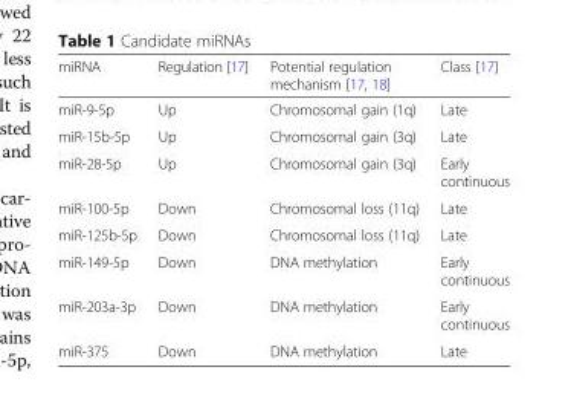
<table><thead><tr><td>miRNA</td><td>Regulation [17]</td><td>Potential regulation mechanism [17, 18]</td><td>Class [17]</td></tr></thead><tbody><tr><td>miR-9-5p</td><td>Up</td><td>Chromosomal gain (1q)</td><td>Late</td></tr><tr><td>miR-15b-5p</td><td>Up</td><td>Chromosomal gain (3q)</td><td>Late</td></tr><tr><td>miR-28-5p</td><td>Up</td><td>Chromosomal gain (3q)</td><td>Early continuous</td></tr><tr><td>miR-100-5p</td><td>Down</td><td>Chromosomal loss (11q)</td><td>Late</td></tr><tr><td>miR-125b-5p</td><td>Down</td><td>Chromosomal loss (11q)</td><td>Late</td></tr><tr><td>miR-149-5p</td><td>Down</td><td>DNA methylation</td><td>Early continuous</td></tr><tr><td>miR-203a-3p</td><td>Down</td><td>DNA methylation</td><td>Early continuous</td></tr><tr><td>miR-375</td><td>Down</td><td>DNA methylation</td><td>Late</td></tr></tbody></table>